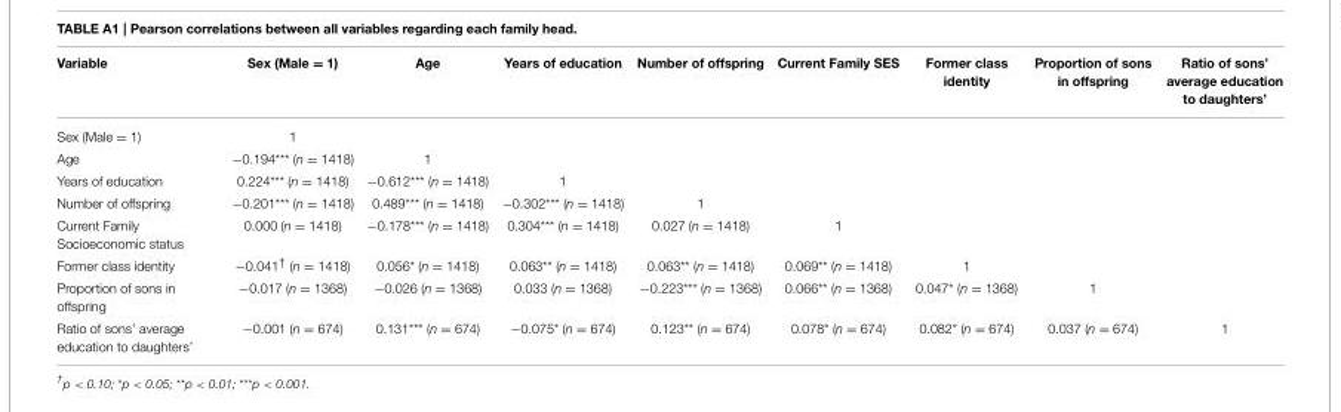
<table><thead><tr><td>Variable</td><td>Sex (Male = 1)</td><td>Age</td><td>Years of education</td><td>Number of offspring</td><td>Current Family SES</td><td>Former class identity</td><td>Proportion of sons in offspring</td><td>Ratio of sons’ average education to daughters’</td></tr></thead><tbody><tr><td>Sex (Male = 1)</td><td>1</td><td></td><td></td><td></td><td></td><td></td><td></td><td></td></tr><tr><td>Age</td><td>−0.194*** (n = 1418)</td><td>1</td><td></td><td></td><td></td><td></td><td></td><td></td></tr><tr><td>Years of education</td><td>0.224*** (n = 1418)</td><td>−0.612*** (n = 1418)</td><td>1</td><td></td><td></td><td></td><td></td><td></td></tr><tr><td>Number of offspring</td><td>−0.201*** (n = 1418)</td><td>0.489*** (n = 1418)</td><td>−0.302*** (n = 1418)</td><td>1</td><td></td><td></td><td></td><td></td></tr><tr><td>Current Family Socioeconomic status</td><td>0.000 (n = 1418)</td><td>−0.178*** (n = 1418)</td><td>0.304*** (n = 1418)</td><td>0.027 (n = 1418)</td><td>1</td><td></td><td></td><td></td></tr><tr><td>Former class identity</td><td>−0.041<sup>†</sup> (n = 1418)</td><td>0.056* (n = 1418)</td><td>0.063** (n = 1418)</td><td>0.063** (n = 1418)</td><td>0.069** (n = 1418)</td><td>1</td><td></td><td></td></tr><tr><td>Proportion of sons in offspring</td><td>−0.017 (n = 1368)</td><td>−0.026 (n = 1368)</td><td>0.033 (n = 1368)</td><td>−0.223*** (n = 1368)</td><td>0.066** (n = 1368)</td><td>0.047* (n = 1368)</td><td>1</td><td></td></tr><tr><td>Ratio of sons’ average education to daughters’</td><td>−0.001 (n = 674)</td><td>0.131*** (n = 674)</td><td>−0.075* (n = 674)</td><td>0.123** (n = 674)</td><td>0.078* (n = 674)</td><td>0.082* (n = 674)</td><td>0.037 (n = 674)</td><td>1</td></tr></tbody></table>